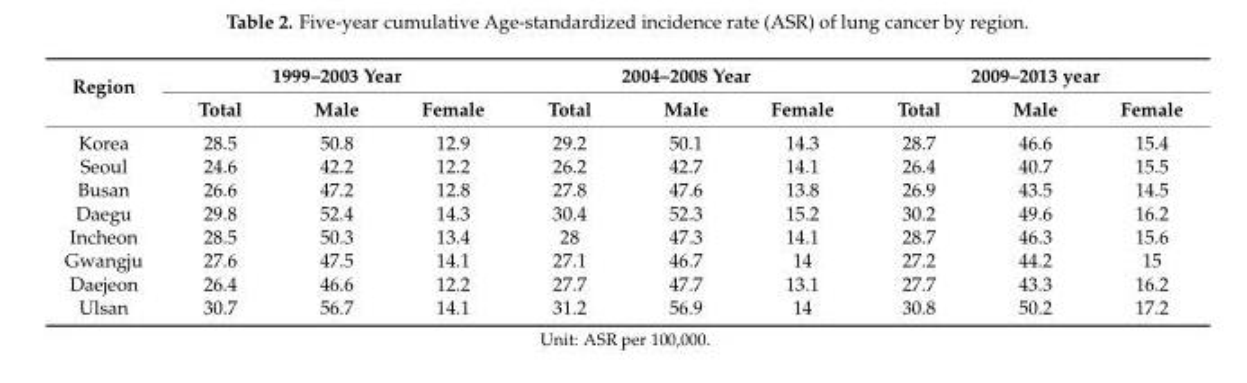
<table><thead><tr><td rowspan="2">Region</td><td colspan="3">1999–2003 Year</td><td colspan="3">2004–2008 Year</td><td colspan="3">2009–2013 year</td></tr><tr><td>Total</td><td>Male</td><td>Female</td><td>Total</td><td>Male</td><td>Female</td><td>Total</td><td>Male</td><td>Female</td></tr></thead><tbody><tr><td>Korea</td><td>28.5</td><td>50.8</td><td>12.9</td><td>29.2</td><td>50.1</td><td>14.3</td><td>28.7</td><td>46.6</td><td>15.4</td></tr><tr><td>Seoul</td><td>24.6</td><td>42.2</td><td>12.2</td><td>26.2</td><td>42.7</td><td>14.1</td><td>26.4</td><td>40.7</td><td>15.5</td></tr><tr><td>Busan</td><td>26.6</td><td>47.2</td><td>12.8</td><td>27.8</td><td>47.6</td><td>13.8</td><td>26.9</td><td>43.5</td><td>14.5</td></tr><tr><td>Daegu</td><td>29.8</td><td>52.4</td><td>14.3</td><td>30.4</td><td>52.3</td><td>15.2</td><td>30.2</td><td>49.6</td><td>16.2</td></tr><tr><td>Incheon</td><td>28.5</td><td>50.3</td><td>13.4</td><td>28</td><td>47.3</td><td>14.1</td><td>28.7</td><td>46.3</td><td>15.6</td></tr><tr><td>Gwangju</td><td>27.6</td><td>47.5</td><td>14.1</td><td>27.1</td><td>46.7</td><td>14</td><td>27.2</td><td>44.2</td><td>15</td></tr><tr><td>Daejeon</td><td>26.4</td><td>46.6</td><td>12.2</td><td>27.7</td><td>47.7</td><td>13.1</td><td>27.7</td><td>43.3</td><td>16.2</td></tr><tr><td>Ulsan</td><td>30.7</td><td>56.7</td><td>14.1</td><td>31.2</td><td>56.9</td><td>14</td><td>30.8</td><td>50.2</td><td>17.2</td></tr></tbody></table>